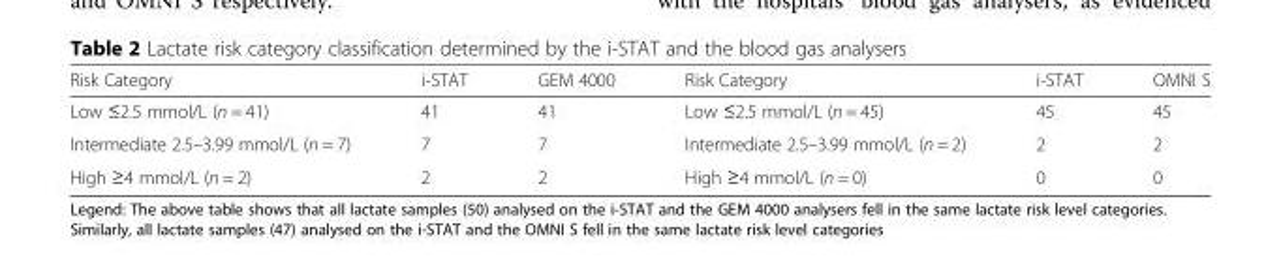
<table><thead><tr><td>Risk Category</td><td>i-STAT</td><td>GEM 4000</td><td>Risk Category</td><td>i-STAT</td><td>OMNI S</td></tr></thead><tbody><tr><td>Low ≤2.5 mmol/L (n = 41)</td><td>41</td><td>41</td><td>Low ≤2.5 mmol/L (n = 45)</td><td>45</td><td>45</td></tr><tr><td>Intermediate 2.5–3.99 mmol/L (n = 7)</td><td>7</td><td>7</td><td>Intermediate 2.5–3.99 mmol/L (n = 2)</td><td>2</td><td>2</td></tr><tr><td>High ≥4 mmol/L (n = 2)</td><td>2</td><td>2</td><td>High ≥4 mmol/L (n = 0)</td><td>0</td><td>0</td></tr></tbody></table>